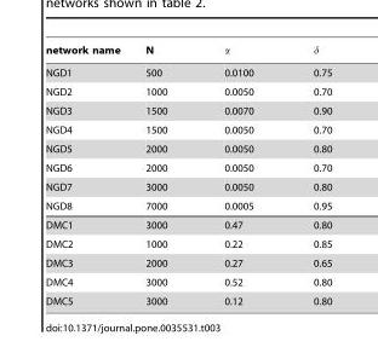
<table><thead><tr><td>network name</td><td>N</td><td>a</td><td>d</td></tr></thead><tbody><tr><td>NGD1</td><td>500</td><td>0.0100</td><td>0.75</td></tr><tr><td>NGD2</td><td>1000</td><td>0.0050</td><td>0.70</td></tr><tr><td>NGD3</td><td>1500</td><td>0.0070</td><td>0.90</td></tr><tr><td>NGD4</td><td>1500</td><td>0.0050</td><td>0.70</td></tr><tr><td>NGD5</td><td>2000</td><td>0.0050</td><td>0.80</td></tr><tr><td>NGD6</td><td>2000</td><td>0.0050</td><td>0.70</td></tr><tr><td>NGD7</td><td>3000</td><td>0.0050</td><td>0.80</td></tr><tr><td>NGD8</td><td>7000</td><td>0.0005</td><td>0.95</td></tr><tr><td>DMC1</td><td>3000</td><td>0.47</td><td>0.80</td></tr><tr><td>DMC2</td><td>1000</td><td>0.22</td><td>0.85</td></tr><tr><td>DMC3</td><td>2000</td><td>0.27</td><td>0.65</td></tr><tr><td>DMC4</td><td>3000</td><td>0.52</td><td>0.80</td></tr><tr><td>DMC5</td><td>3000</td><td>0.12</td><td>0.80</td></tr></tbody></table>